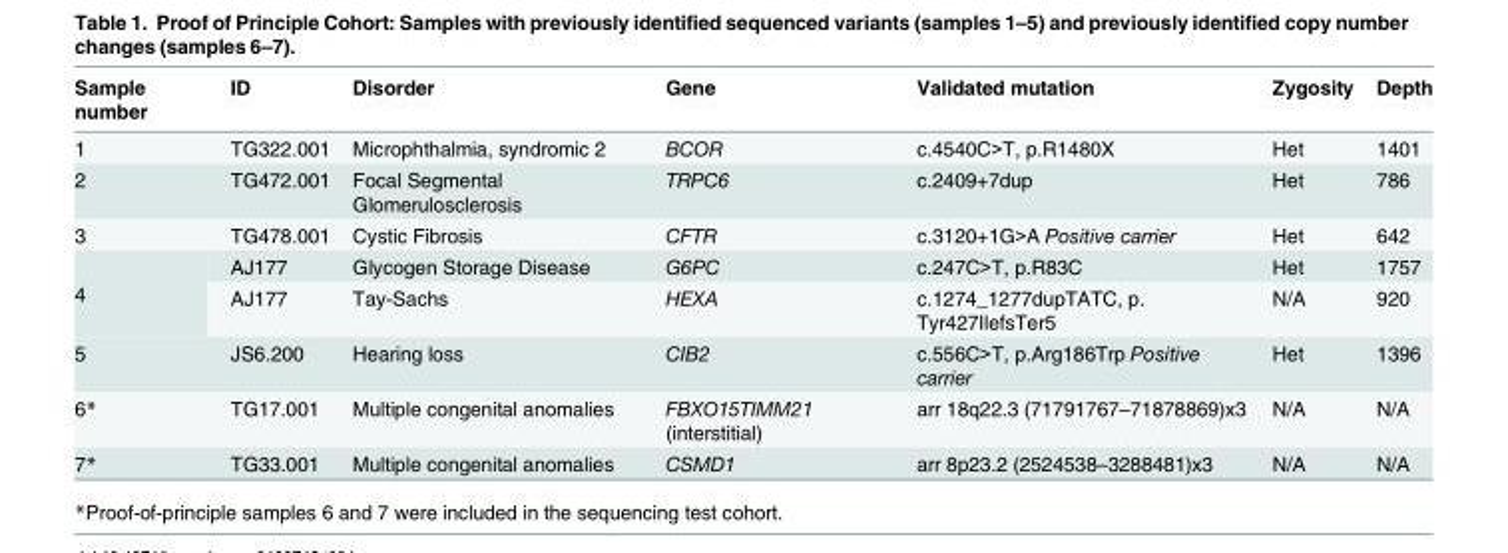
<table><thead><tr><td>Sample number</td><td>ID</td><td>Disorder</td><td>Gene</td><td>Validated mutation</td><td>Zygosity</td><td>Depth</td></tr></thead><tbody><tr><td>1</td><td>TG322.001</td><td>Microphthalmia, syndromic 2</td><td>BCOR</td><td>c.4540C&gt;T, p.R1480X</td><td>Het</td><td>1401</td></tr><tr><td>2</td><td>TG472.001</td><td>Focal Segmental Glomerulosclerosis</td><td>TRPC6</td><td>c.2409+7dup</td><td>Het</td><td>786</td></tr><tr><td>3</td><td>TG478.001</td><td>Cystic Fibrosis</td><td>CFTR</td><td>c.3120+1G&gt;A Positive carrier</td><td>Het</td><td>642</td></tr><tr><td rowspan="2">4</td><td>AJ177</td><td>Glycogen Storage Disease</td><td>G6PC</td><td>c.247C&gt;T, p.R83C</td><td>Het</td><td>1757</td></tr><tr><td>AJ177</td><td>Tay-Sachs</td><td>HEXA</td><td>c.1274_1277dupTATC, p. Tyr427IlefsTer5</td><td>N/A</td><td>920</td></tr><tr><td>5</td><td>JS6.200</td><td>Hearing loss</td><td>CIB2</td><td>c.556C&gt;T, p.Arg186Trp Positive carrier</td><td>Het</td><td>1396</td></tr><tr><td>6*</td><td>TG17.001</td><td>Multiple congenital anomalies</td><td>FBXO15TIMM21 (interstitial)</td><td>arr 18q22.3 (71791767–71878869)x3</td><td>N/A</td><td>N/A</td></tr><tr><td>7*</td><td>TG33.001</td><td>Multiple congenital anomalies</td><td>CSMD1</td><td>arr 8p23.2 (2524538–3288481)x3</td><td>N/A</td><td>N/A</td></tr></tbody></table>